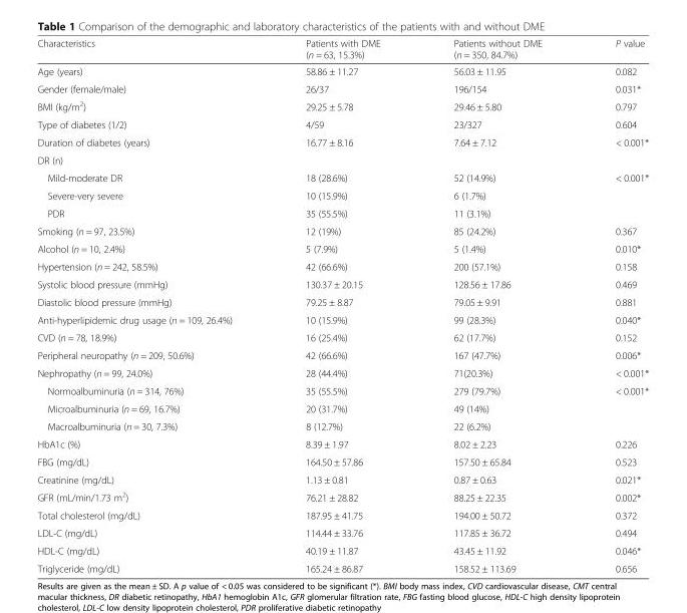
<table><thead><tr><td>Characteristics</td><td>Patients with DME (n = 63, 15.3%)</td><td>Patients without DME (n = 350, 84.7%)</td><td>P value</td></tr></thead><tbody><tr><td>Age (years)</td><td>58.86 ± 11.27</td><td>56.03 ± 11.95</td><td>0.082</td></tr><tr><td>Gender (female/male)</td><td>26/37</td><td>196/154</td><td>0.031*</td></tr><tr><td>BMI (kg/m<sup>2</sup>)</td><td>29.25 ± 5.78</td><td>29.46 ± 5.80</td><td>0.797</td></tr><tr><td>Type of diabetes (1/2)</td><td>4/59</td><td>23/327</td><td>0.604</td></tr><tr><td>Duration of diabetes (years)</td><td>16.77 ± 8.16</td><td>7.64 ± 7.12</td><td>&lt; 0.001*</td></tr><tr><td colspan="4">DR (n)</td></tr><tr><td>Mild-moderate DR</td><td>18 (28.6%)</td><td>52 (14.9%)</td><td rowspan="3">&lt; 0.001*</td></tr><tr><td>Severe-very severe</td><td>10 (15.9%)</td><td>6 (1.7%)</td></tr><tr><td>PDR</td><td>35 (55.5%)</td><td>11 (3.1%)</td></tr><tr><td>Smoking (n = 97, 23.5%)</td><td>12 (19%)</td><td>85 (24.2%)</td><td>0.367</td></tr><tr><td>Alcohol (n = 10, 2.4%)</td><td>5 (7.9%)</td><td>5 (1.4%)</td><td>0.010*</td></tr><tr><td>Hypertension (n = 242, 58.5%)</td><td>42 (66.6%)</td><td>200 (57.1%)</td><td>0.158</td></tr><tr><td>Systolic blood pressure (mmHg)</td><td>130.37 ± 20.15</td><td>128.56 ± 17.86</td><td>0.469</td></tr><tr><td>Diastolic blood pressure (mmHg)</td><td>79.25 ± 8.87</td><td>79.05 ± 9.91</td><td>0.881</td></tr><tr><td>Anti-hyperlipidemic drug usage (n = 109, 26.4%)</td><td>10 (15.9%)</td><td>99 (28.3%)</td><td>0.040*</td></tr><tr><td>CVD (n = 78, 18.9%)</td><td>16 (25.4%)</td><td>62 (17.7%)</td><td>0.152</td></tr><tr><td>Peripheral neuropathy (n = 209, 50.6%)</td><td>42 (66.6%)</td><td>167 (47.7%)</td><td>0.006*</td></tr><tr><td>Nephropathy (n = 99, 24.0%)</td><td>28 (44.4%)</td><td>71(20.3%)</td><td>&lt; 0.001*</td></tr><tr><td>Normoalbuminuria (n = 314, 76%)</td><td>35 (55.5%)</td><td>279 (79.7%)</td><td rowspan="3">&lt; 0.001*</td></tr><tr><td>Microalbuminuria (n = 69, 16.7%)</td><td>20 (31.7%)</td><td>49 (14%)</td></tr><tr><td>Macroalbuminuria (n = 30, 7.3%)</td><td>8 (12.7%)</td><td>22 (6.2%)</td></tr><tr><td>HbA1c (%)</td><td>8.39 ± 1.97</td><td>8.02 ± 2.23</td><td>0.226</td></tr><tr><td>FBG (mg/dL)</td><td>164.50 ± 57.86</td><td>157.50 ± 65.84</td><td>0.523</td></tr><tr><td>Creatinine (mg/dL)</td><td>1.13 ± 0.81</td><td>0.87 ± 0.63</td><td>0.021*</td></tr><tr><td>GFR (mL/min/1.73 m<sup>2</sup>)</td><td>76.21 ± 28.82</td><td>88.25 ± 22.35</td><td>0.002*</td></tr><tr><td>Total cholesterol (mg/dL)</td><td>187.95 ± 41.75</td><td>194.00 ± 50.72</td><td>0.372</td></tr><tr><td>LDL-C (mg/dL)</td><td>114.44 ± 33.76</td><td>117.85 ± 36.72</td><td>0.494</td></tr><tr><td>HDL-C (mg/dL)</td><td>40.19 ± 11.87</td><td>43.45 ± 11.92</td><td>0.046*</td></tr><tr><td>Triglyceride (mg/dL)</td><td>165.24 ± 86.87</td><td>158.52 ± 113.69</td><td>0.656</td></tr></tbody></table>